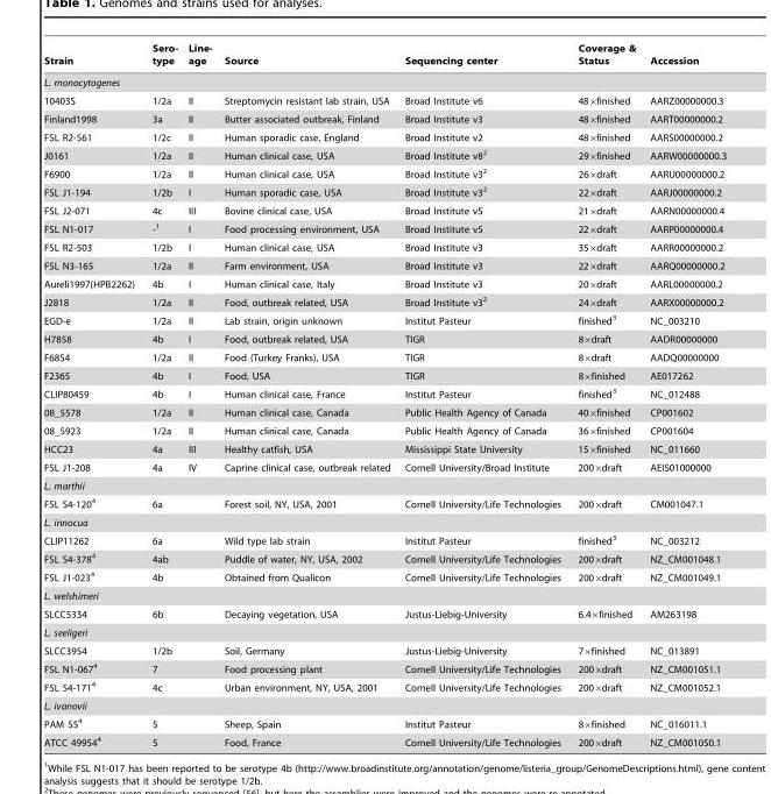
<table><thead><tr><td>Strain</td><td>Sero- type</td><td>Line- age</td><td>Source</td><td>Sequencing center</td><td>Coverage &amp; Status</td><td>Accession</td></tr></thead><tbody><tr><td colspan="7">L. monocytogenes</td></tr><tr><td>10403S</td><td>1/2a</td><td>II</td><td>Streptomycin resistant lab strain, USA</td><td>Broad Institute v6</td><td>48×finished</td><td>AARZ00000000.3</td></tr><tr><td>Finland1998</td><td>3a</td><td>II</td><td>Butter associated outbreak, Finland</td><td>Broad Institute v3</td><td>48×finished</td><td>AART00000000.2</td></tr><tr><td>FSL R2-561</td><td>1/2c</td><td>II</td><td>Human sporadic case, England</td><td>Broad Institute v2</td><td>48×finished</td><td>AARS00000000.2</td></tr><tr><td>J0161</td><td>1/2a</td><td>II</td><td>Human clinical case, USA</td><td>Broad Institute v8<sup>2</sup></td><td>29×finished</td><td>AARW00000000.3</td></tr><tr><td>F6900</td><td>1/2a</td><td>II</td><td>Human clinical case, USA</td><td>Broad Institute v3<sup>2</sup></td><td>26×draft</td><td>AARU00000000.2</td></tr><tr><td>FSL J1-194</td><td>1/2b</td><td>I</td><td>Human sporadic case, USA</td><td>Broad Institute v3<sup>2</sup></td><td>22×draft</td><td>AARJ00000000.2</td></tr><tr><td>FSL J2-071</td><td>4c</td><td>III</td><td>Bovine clinical case, USA</td><td>Broad Institute v5</td><td>21×draft</td><td>AARN00000000.4</td></tr><tr><td>FSL N1-017</td><td>-1</td><td>I</td><td>Food processing environment, USA</td><td>Broad Institute v5</td><td>22×draft</td><td>AARP00000000.4</td></tr><tr><td>FSL R2-503</td><td>1/2b</td><td>I</td><td>Human clinical case, USA</td><td>Broad Institute v3</td><td>35×draft</td><td>AARR00000000.2</td></tr><tr><td>FSL N3-165</td><td>1/2a</td><td>II</td><td>Farm environment, USA</td><td>Broad Institute v3</td><td>22×draft</td><td>AARQ00000000.2</td></tr><tr><td>Aureli1997(HPB2262)</td><td>4b</td><td>I</td><td>Human clinical case, Italy</td><td>Broad Institute v3</td><td>20×draft</td><td>AARL00000000.2</td></tr><tr><td>J2818</td><td>1/2a</td><td>II</td><td>Food, outbreak related, USA</td><td>Broad Institute v3<sup>2</sup></td><td>24×draft</td><td>AARX00000000.2</td></tr><tr><td>EGD-e</td><td>1/2a</td><td>II</td><td>Lab strain, origin unknown</td><td>Institut Pasteur</td><td>finished<sup>3</sup></td><td>NC_003210</td></tr><tr><td>H7858</td><td>4b</td><td>I</td><td>Food, outbreak related, USA</td><td>TIGR</td><td>8×draft</td><td>AADR00000000</td></tr><tr><td>F6854</td><td>1/2a</td><td>II</td><td>Food (Turkey Franks), USA</td><td>TIGR</td><td>8×draft</td><td>AADQ00000000</td></tr><tr><td>F2365</td><td>4b</td><td>I</td><td>Food, USA</td><td>TIGR</td><td>8×finished</td><td>AE017262</td></tr><tr><td>CLIP80459</td><td>4b</td><td>I</td><td>Human clinical case, France</td><td>Institut Pasteur</td><td>finished<sup>3</sup></td><td>NC_012488</td></tr><tr><td>08_5578</td><td>1/2a</td><td>II</td><td>Human clinical case, Canada</td><td>Public Health Agency of Canada</td><td>40×finished</td><td>CP001602</td></tr><tr><td>08_5923</td><td>1/2a</td><td>II</td><td>Human clinical case, Canada</td><td>Public Health Agency of Canada</td><td>36×finished</td><td>CP001604</td></tr><tr><td>HCC23</td><td>4a</td><td>III</td><td>Healthy catfish, USA</td><td>Mississippi State University</td><td>15×finished</td><td>NC_011660</td></tr><tr><td>FSL J1-208</td><td>4a</td><td>IV</td><td>Caprine clinical case, outbreak related</td><td>Cornell University/Broad Institute</td><td>200×draft</td><td>AEIS01000000</td></tr><tr><td colspan="7">L. marthii</td></tr><tr><td>FSL S4-120<sup>4</sup></td><td>6a</td><td></td><td>Forest soil, NY, USA, 2001</td><td>Cornell University/Life Technologies</td><td>200×draft</td><td>CM001047.1</td></tr><tr><td colspan="7">L. innocua</td></tr><tr><td>CLIP11262</td><td>6a</td><td></td><td>Wild type lab strain</td><td>Institut Pasteur</td><td>finished<sup>3</sup></td><td>NC_003212</td></tr><tr><td>FSL S4-378<sup>4</sup></td><td>4ab</td><td></td><td>Puddle of water, NY, USA, 2002</td><td>Cornell University/Life Technologies</td><td>200×draft</td><td>NZ_CM001048.1</td></tr><tr><td>FSL J1-023<sup>4</sup></td><td>4b</td><td></td><td>Obtained from Qualicon</td><td>Cornell University/Life Technologies</td><td>200×draft</td><td>NZ_CM001049.1</td></tr><tr><td colspan="7">L. welshimeri</td></tr><tr><td>SLCC5334</td><td>6b</td><td></td><td>Decaying vegetation, USA</td><td>Justus-Liebig-University</td><td>6.4×finished</td><td>AM263198</td></tr><tr><td colspan="7">L. seeligeri</td></tr><tr><td>SLCC3954</td><td>1/2b</td><td></td><td>Soil, Germany</td><td>Justus-Liebig-University</td><td>7×finished</td><td>NC_013891</td></tr><tr><td>FSL N1-067<sup>4</sup></td><td>7</td><td></td><td>Food processing plant</td><td>Cornell University/Life Technologies</td><td>200×draft</td><td>NZ_CM001051.1</td></tr><tr><td>FSL S4-171<sup>4</sup></td><td>4c</td><td></td><td>Urban environment, NY, USA, 2001</td><td>Cornell University/Life Technologies</td><td>200×draft</td><td>NZ_CM001052.1</td></tr><tr><td colspan="7">L. ivanovii</td></tr><tr><td>PAM 55<sup>4</sup></td><td>5</td><td></td><td>Sheep, Spain</td><td>Institut Pasteur</td><td>8×finished</td><td>NC_016011.1</td></tr><tr><td>ATCC 49954<sup>4</sup></td><td>5</td><td></td><td>Food, France</td><td>Cornell University/Life Technologies</td><td>200×draft</td><td>NZ_CM001050.1</td></tr></tbody></table>